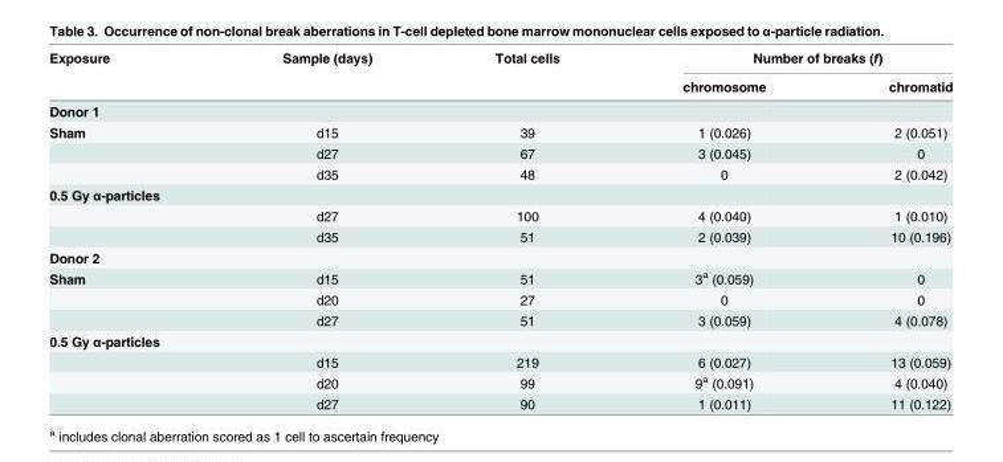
<table><thead><tr><td rowspan="2">Exposure</td><td rowspan="2">Sample (days)</td><td rowspan="2">Total cells</td><td colspan="2">Number of breaks (f)</td></tr><tr><td>chromosome</td><td>chromatid</td></tr></thead><tbody><tr><td colspan="5">Donor 1</td></tr><tr><td rowspan="3">Sham</td><td>d15</td><td>39</td><td>1 (0.026)</td><td>2 (0.051)</td></tr><tr><td>d27</td><td>67</td><td>3 (0.045)</td><td>0</td></tr><tr><td>d35</td><td>48</td><td>0</td><td>2 (0.042)</td></tr><tr><td colspan="5">0.5 Gy α-particles</td></tr><tr><td></td><td>d27</td><td>100</td><td>4 (0.040)</td><td>1 (0.010)</td></tr><tr><td></td><td>d35</td><td>51</td><td>2 (0.039)</td><td>10 (0.196)</td></tr><tr><td colspan="5">Donor 2</td></tr><tr><td rowspan="3">Sham</td><td>d15</td><td>51</td><td>3<sup>a</sup> (0.059)</td><td>0</td></tr><tr><td>d20</td><td>27</td><td>0</td><td>0</td></tr><tr><td>d27</td><td>51</td><td>3 (0.059)</td><td>4 (0.078)</td></tr><tr><td colspan="5">0.5 Gy α-particles</td></tr><tr><td></td><td>d15</td><td>219</td><td>6 (0.027)</td><td>13 (0.059)</td></tr><tr><td></td><td>d20</td><td>99</td><td>9<sup>a</sup> (0.091)</td><td>4 (0.040)</td></tr><tr><td></td><td>d27</td><td>90</td><td>1 (0.011)</td><td>11 (0.122)</td></tr></tbody></table>